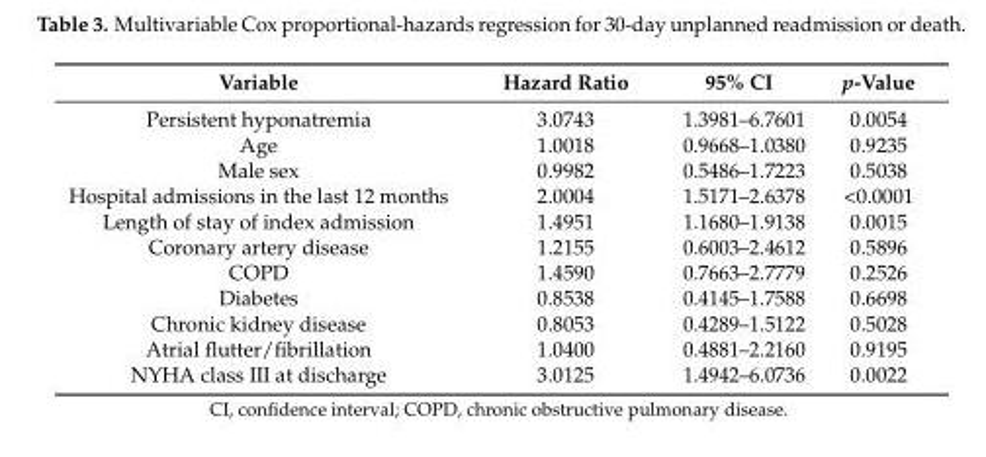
<table><thead><tr><td>Variable</td><td>Hazard Ratio</td><td>95% CI</td><td>p-Value</td></tr></thead><tbody><tr><td>Persistent hyponatremia</td><td>3.0743</td><td>1.3981–6.7601</td><td>0.0054</td></tr><tr><td>Age</td><td>1.0018</td><td>0.9668–1.0380</td><td>0.9235</td></tr><tr><td>Male sex</td><td>0.9982</td><td>0.5486–1.7223</td><td>0.5038</td></tr><tr><td>Hospital admissions in the last 12 months</td><td>2.0004</td><td>1.5171–2.6378</td><td>&lt;0.0001</td></tr><tr><td>Length of stay of index admission</td><td>1.4951</td><td>1.1680–1.9138</td><td>0.0015</td></tr><tr><td>Coronary artery disease</td><td>1.2155</td><td>0.6003–2.4612</td><td>0.5896</td></tr><tr><td>COPD</td><td>1.4590</td><td>0.7663–2.7779</td><td>0.2526</td></tr><tr><td>Diabetes</td><td>0.8538</td><td>0.4145–1.7588</td><td>0.6698</td></tr><tr><td>Chronic kidney disease</td><td>0.8053</td><td>0.4289–1.5122</td><td>0.5028</td></tr><tr><td>Atrial flutter/fibrillation</td><td>1.0400</td><td>0.4881–2.2160</td><td>0.9195</td></tr><tr><td>NYHA class III at discharge</td><td>3.0125</td><td>1.4942–6.0736</td><td>0.0022</td></tr></tbody></table>